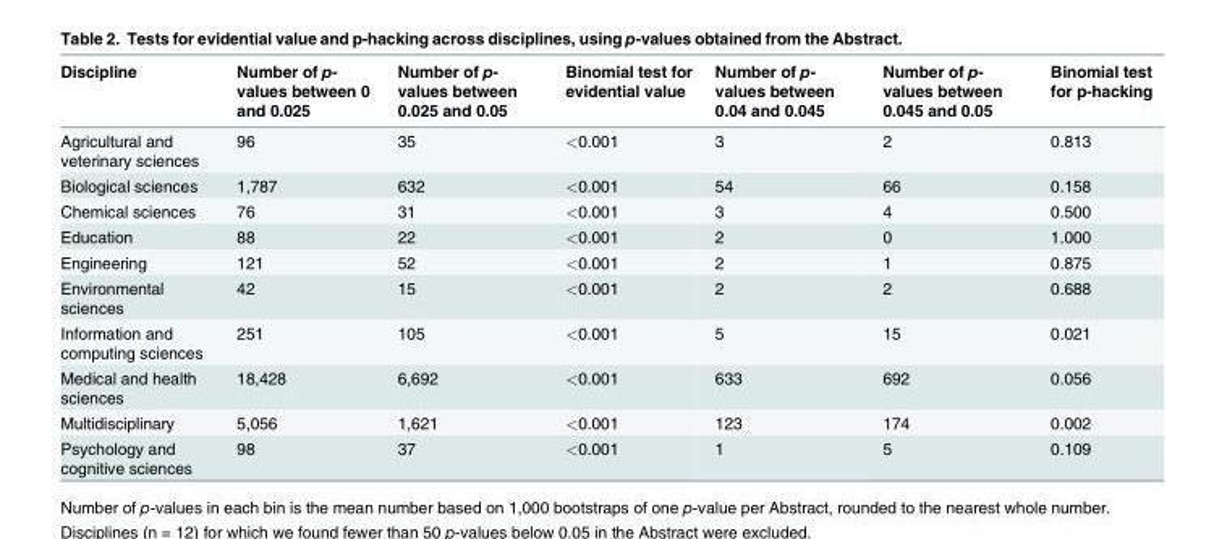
<table><thead><tr><td>Discipline</td><td>Number of p- values between 0 and 0.025</td><td>Number of p- values between 0.025 and 0.05</td><td>Binomial test for evidential value</td><td>Number of p- values between 0.04 and 0.045</td><td>Number of p- values between 0.045 and 0.05</td><td>Binomial test for p-hacking</td></tr></thead><tbody><tr><td>Agricultural and veterinary sciences</td><td>96</td><td>35</td><td>&lt;0.001</td><td>3</td><td>2</td><td>0.813</td></tr><tr><td>Biological sciences</td><td>1,787</td><td>632</td><td>&lt;0.001</td><td>54</td><td>66</td><td>0.158</td></tr><tr><td>Chemical sciences</td><td>76</td><td>31</td><td>&lt;0.001</td><td>3</td><td>4</td><td>0.500</td></tr><tr><td>Education</td><td>88</td><td>22</td><td>&lt;0.001</td><td>2</td><td>0</td><td>1.000</td></tr><tr><td>Engineering</td><td>121</td><td>52</td><td>&lt;0.001</td><td>2</td><td>1</td><td>0.875</td></tr><tr><td>Environmental sciences</td><td>42</td><td>15</td><td>&lt;0.001</td><td>2</td><td>2</td><td>0.688</td></tr><tr><td>Information and computing sciences</td><td>251</td><td>105</td><td>&lt;0.001</td><td>5</td><td>15</td><td>0.021</td></tr><tr><td>Medical and health sciences</td><td>18,428</td><td>6,692</td><td>&lt;0.001</td><td>633</td><td>692</td><td>0.056</td></tr><tr><td>Multidisciplinary</td><td>5,056</td><td>1,621</td><td>&lt;0.001</td><td>123</td><td>174</td><td>0.002</td></tr><tr><td>Psychology and cognitive sciences</td><td>98</td><td>37</td><td>&lt;0.001</td><td>1</td><td>5</td><td>0.109</td></tr></tbody></table>